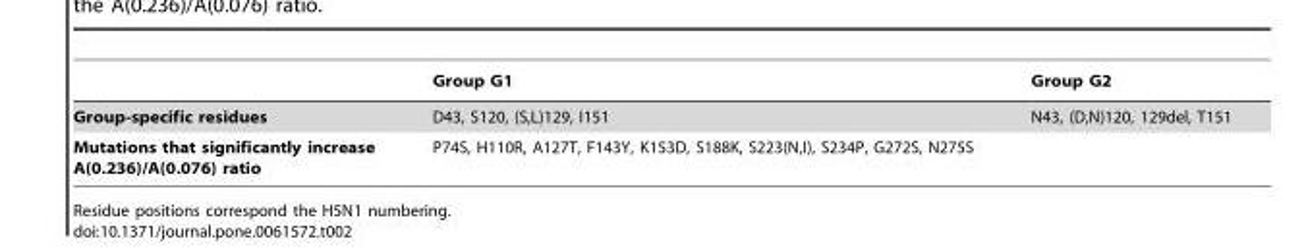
<table><thead><tr><td></td><td>Group G1</td><td>Group G2</td></tr></thead><tbody><tr><td>Group-specific residues</td><td>D43, S120, (S,L)129, I151</td><td>N43, (D,N)120, 129del, T151</td></tr><tr><td>Mutations that significantly increase A(0.236)/A(0.076) ratio</td><td colspan="2">P74S, H110R, A127T, F143Y, K153D, S188K, S223(N,I), S234P, G272S, N275S</td></tr></tbody></table>